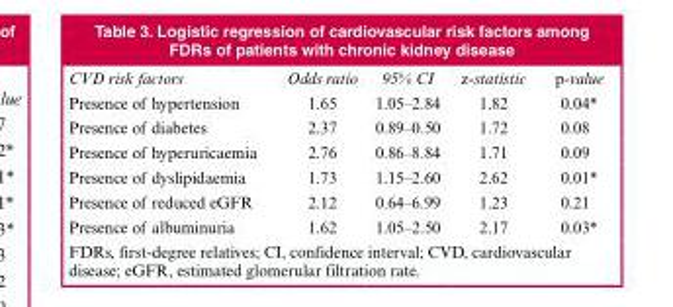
<table><thead><tr><td>CVD risk factors</td><td>Odds ratio</td><td>95% CI</td><td>z-statistic</td><td>p-value</td></tr></thead><tbody><tr><td>Presence of hypertension</td><td>1.65</td><td>1.05–2.84</td><td>1.82</td><td>0.04*</td></tr><tr><td>Presence of diabetes</td><td>2.37</td><td>0.89–0.50</td><td>1.72</td><td>0.08</td></tr><tr><td>Presence of hyperuricaemia</td><td>2.76</td><td>0.86–8.84</td><td>1.71</td><td>0.09</td></tr><tr><td>Presence of dyslipidaemia</td><td>1.73</td><td>1.15–2.60</td><td>2.62</td><td>0.01*</td></tr><tr><td>Presence of reduced eGFR</td><td>2.12</td><td>0.64–6.99</td><td>1.23</td><td>0.21</td></tr><tr><td>Presence of albuminuria</td><td>1.62</td><td>1.05–2.50</td><td>2.17</td><td>0.03*</td></tr></tbody></table>